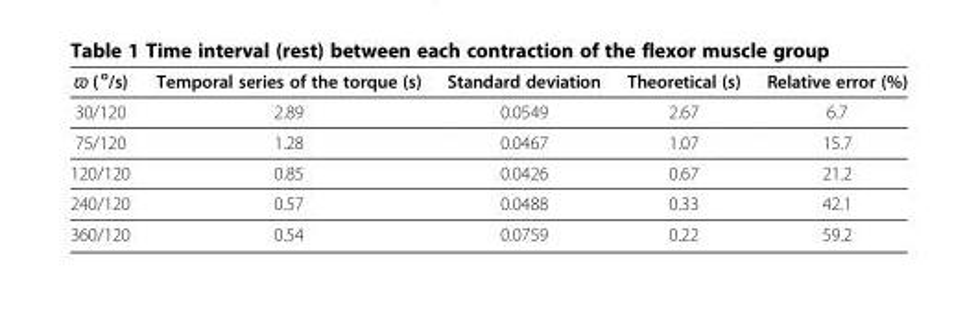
<table><thead><tr><td>ϖ ( <sup>o</sup>/s)</td><td>Temporal series of the torque (s)</td><td>Standard deviation</td><td>Theoretical (s)</td><td>Relative error (%)</td></tr></thead><tbody><tr><td>30/120</td><td>2.89</td><td>0.0549</td><td>2.67</td><td>6.7</td></tr><tr><td>75/120</td><td>1.28</td><td>0.0467</td><td>1.07</td><td>15.7</td></tr><tr><td>120/120</td><td>0.85</td><td>0.0426</td><td>0.67</td><td>21.2</td></tr><tr><td>240/120</td><td>0.57</td><td>0.0488</td><td>0.33</td><td>42.1</td></tr><tr><td>360/120</td><td>0.54</td><td>0.0759</td><td>0.22</td><td>59.2</td></tr></tbody></table>